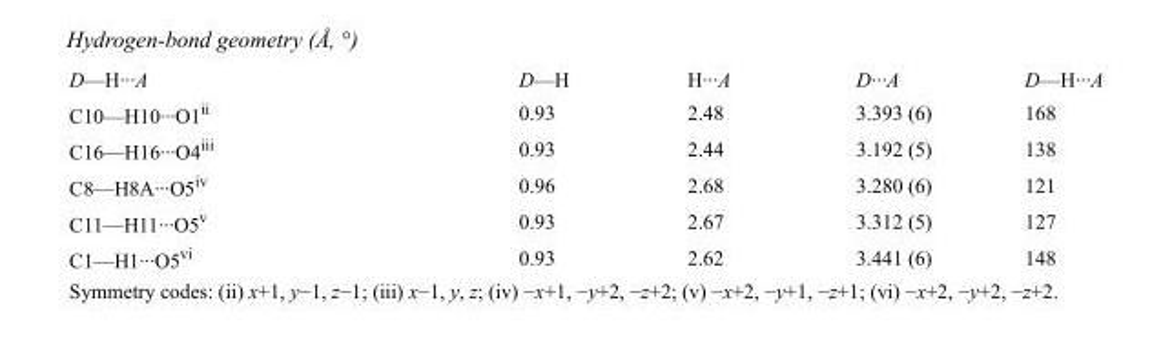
<table><tbody><tr><td>D—H···A</td><td>D—H</td><td>H···A</td><td>D···A</td><td>D—H···A</td></tr><tr><td>C10—H10···O1<sup>ii</sup></td><td>0.93</td><td>2.48</td><td>3.393 (6)</td><td>168</td></tr><tr><td>C16—H16···O4<sup>iii</sup></td><td>0.93</td><td>2.44</td><td>3.192 (5)</td><td>138</td></tr><tr><td>C8—H8A···O5<sup>iv</sup></td><td>0.96</td><td>2.68</td><td>3.280 (6)</td><td>121</td></tr><tr><td>C11—H11···O5<sup>v</sup></td><td>0.93</td><td>2.67</td><td>3.312 (5)</td><td>127</td></tr><tr><td>C1—H1···O5<sup>vi</sup></td><td>0.93</td><td>2.62</td><td>3.441 (6)</td><td>148</td></tr></tbody></table>